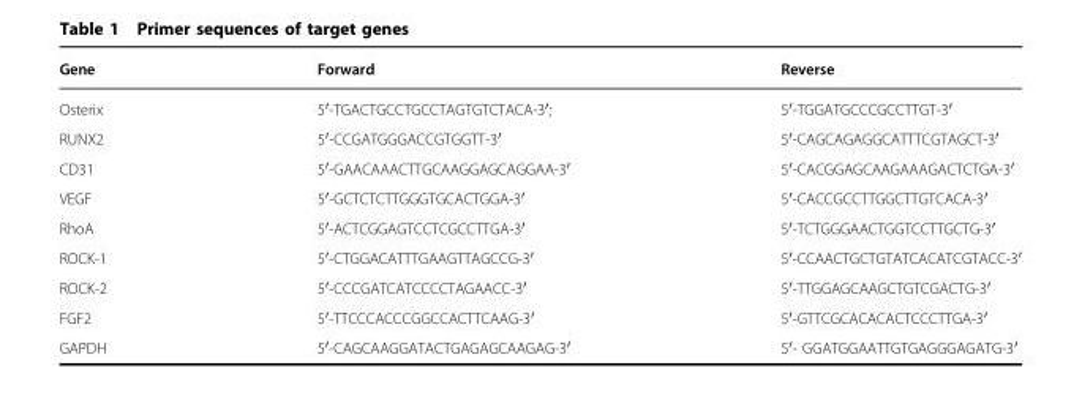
<table><thead><tr><td>Gene</td><td>Forward</td><td>Reverse</td></tr></thead><tbody><tr><td>Osterix</td><td>5′-TGACTGCCTGCCTAGTGTCTACA-3′;</td><td>5′-TGGATGCCCGCCTTGT-3′</td></tr><tr><td>RUNX2</td><td>5′-CCGATGGGACCGTGGTT-3′</td><td>5′-CAGCAGAGGCATTTCGTAGCT-3′</td></tr><tr><td>CD31</td><td>5′-GAACAAACTTGCAAGGAGCAGGAA-3′</td><td>5′-CACGGAGCAAGAAAGACTCTGA-3′</td></tr><tr><td>VEGF</td><td>5′-GCTCTCTTGGGTGCACTGGA-3′</td><td>5′-CACCGCCTTGGCTTGTCACA-3′</td></tr><tr><td>RhoA</td><td>5′-ACTCGGAGTCCTCGCCTTGA-3′</td><td>5′-TCTGGGAACTGGTCCTTGCTG-3′</td></tr><tr><td>ROCK-1</td><td>5′-CTGGACATTTGAAGTTAGCCG-3′</td><td>5′-CCAACTGCTGTATCACATCGTACC-3′</td></tr><tr><td>ROCK-2</td><td>5′-CCCGATCATCCCCTAGAACC-3′</td><td>5′-TTGGAGCAAGCTGTCGACTG-3′</td></tr><tr><td>FGF2</td><td>5′-TTCCCACCCGGCCACTTCAAG-3′</td><td>5′-GTTCGCACACACTCCCTTGA-3′</td></tr><tr><td>GAPDH</td><td>5′-CAGCAAGGATACTGAGAGCAAGAG-3′</td><td>5′- GGATGGAATTGTGAGGGAGATG-3′</td></tr></tbody></table>